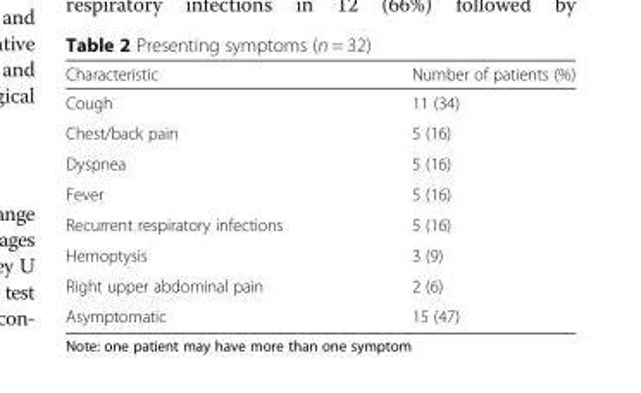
<table><thead><tr><td>Characteristic</td><td>Number of patients (%)</td></tr></thead><tbody><tr><td>Cough</td><td>11 (34)</td></tr><tr><td>Chest/back pain</td><td>5 (16)</td></tr><tr><td>Dyspnea</td><td>5 (16)</td></tr><tr><td>Fever</td><td>5 (16)</td></tr><tr><td>Recurrent respiratory infections</td><td>5 (16)</td></tr><tr><td>Hemoptysis</td><td>3 (9)</td></tr><tr><td>Right upper abdominal pain</td><td>2 (6)</td></tr><tr><td>Asymptomatic</td><td>15 (47)</td></tr></tbody></table>